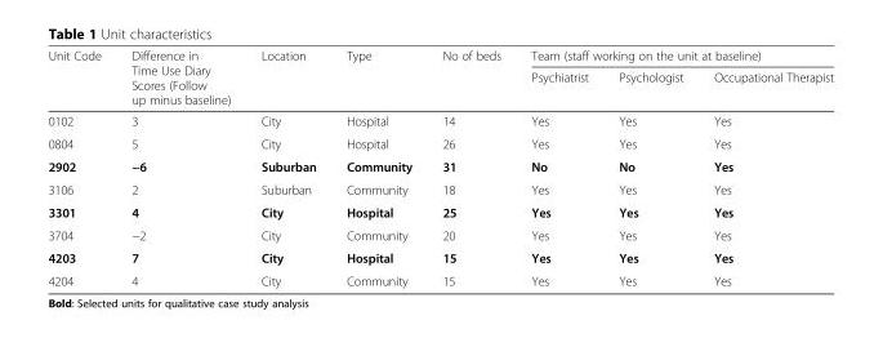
<table><thead><tr><td rowspan="2">Unit Code</td><td rowspan="2">Difference in Time Use Diary Scores (Follow up minus baseline)</td><td rowspan="2">Location</td><td rowspan="2">Type</td><td rowspan="2">No of beds</td><td colspan="3">Team (staff working on the unit at baseline)</td></tr><tr><td>Psychiatrist</td><td>Psychologist</td><td>Occupational Therapist</td></tr></thead><tbody><tr><td>0102</td><td>3</td><td>City</td><td>Hospital</td><td>14</td><td>Yes</td><td>Yes</td><td>Yes</td></tr><tr><td>0804</td><td>5</td><td>City</td><td>Hospital</td><td>26</td><td>Yes</td><td>Yes</td><td>Yes</td></tr><tr><td>2902</td><td>−6</td><td>Suburban</td><td>Community</td><td>31</td><td>No</td><td>No</td><td>Yes</td></tr><tr><td>3106</td><td>2</td><td>Suburban</td><td>Community</td><td>18</td><td>Yes</td><td>Yes</td><td>Yes</td></tr><tr><td>3301</td><td>4</td><td>City</td><td>Hospital</td><td>25</td><td>Yes</td><td>Yes</td><td>Yes</td></tr><tr><td>3704</td><td>−2</td><td>City</td><td>Community</td><td>20</td><td>Yes</td><td>Yes</td><td>Yes</td></tr><tr><td>4203</td><td>7</td><td>City</td><td>Hospital</td><td>15</td><td>Yes</td><td>Yes</td><td>Yes</td></tr><tr><td>4204</td><td>4</td><td>City</td><td>Community</td><td>15</td><td>Yes</td><td>Yes</td><td>Yes</td></tr></tbody></table>